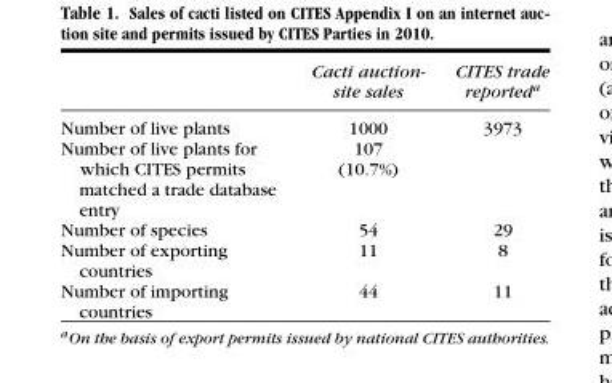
<table><thead><tr><td></td><td>Cacti auction- site sales</td><td>CITES trade reported<sup>a</sup></td></tr></thead><tbody><tr><td>Number of live plants</td><td>1000</td><td>3973</td></tr><tr><td>Number of live plants for</td><td>107</td><td></td></tr><tr><td>which CITES permits matched a trade database entry</td><td>(10.7%)</td><td></td></tr><tr><td>Number of species</td><td>54</td><td>29</td></tr><tr><td>Number of exporting countries</td><td>11</td><td>8</td></tr><tr><td>Number of importing countries</td><td>44</td><td>11</td></tr></tbody></table>